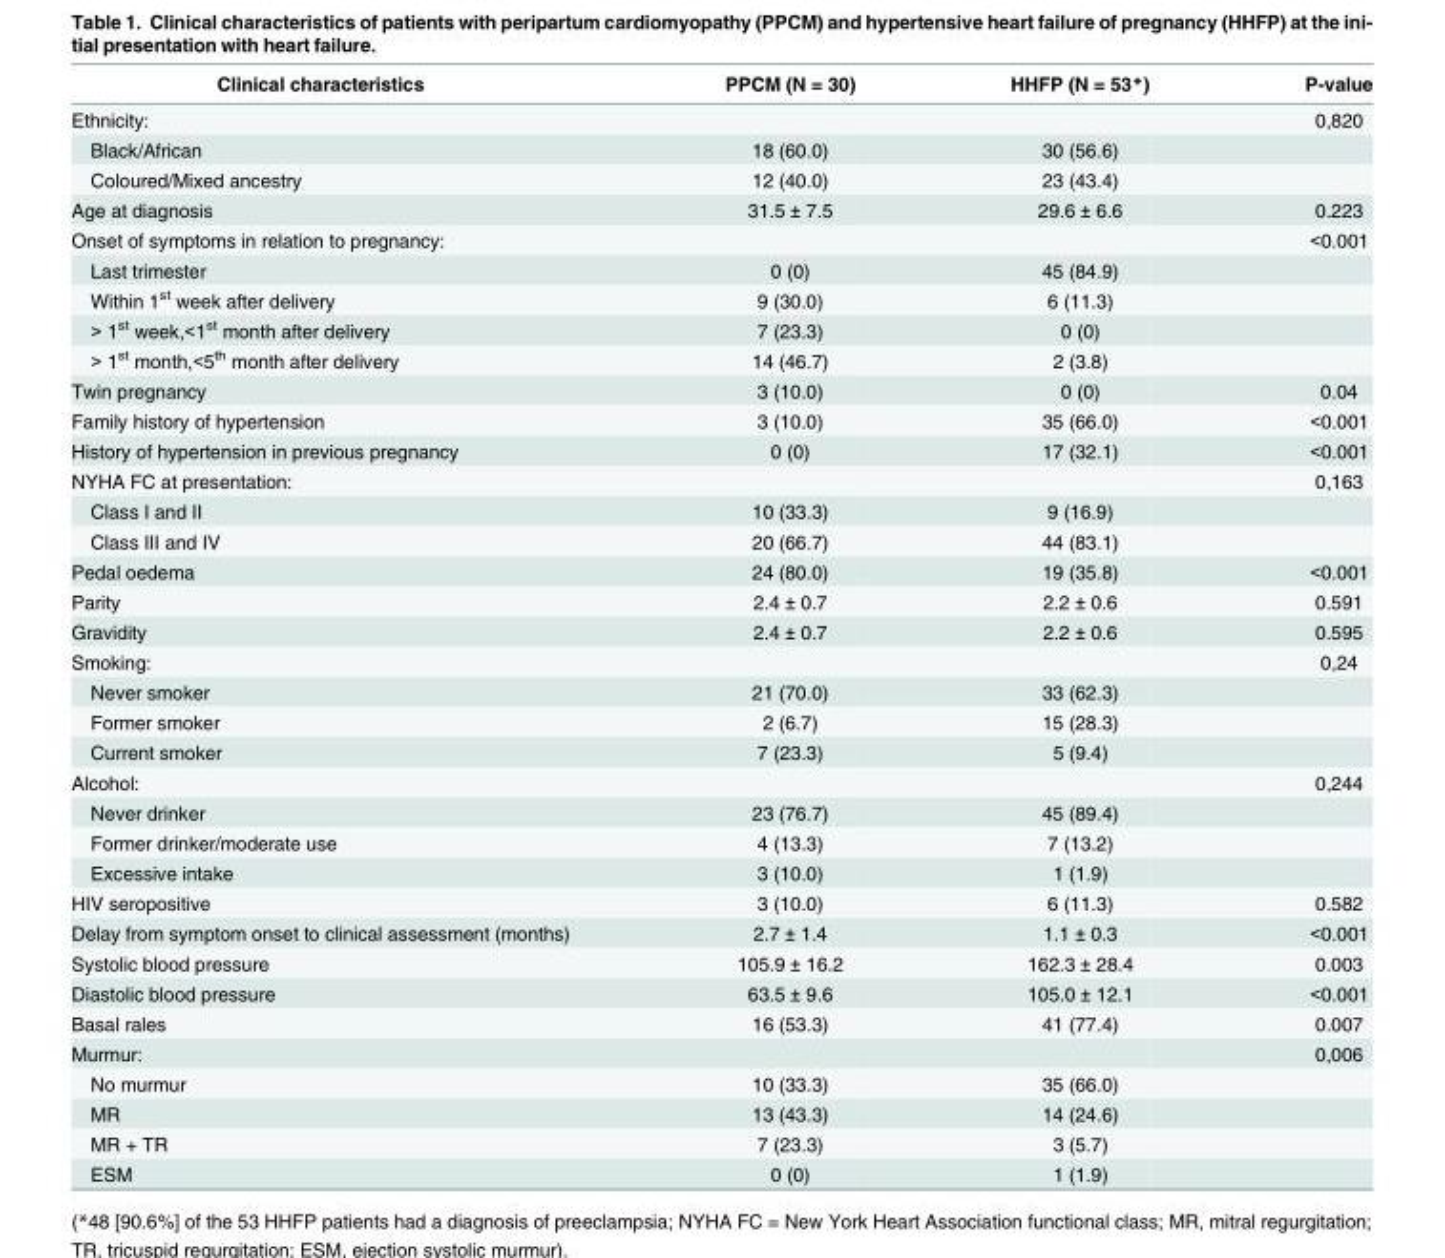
<table><thead><tr><td>Clinical characteristics</td><td>PPCM (N = 30)</td><td>HHFP (N = 53*)</td><td>P-value</td></tr></thead><tbody><tr><td>Ethnicity:</td><td></td><td></td><td>0,820</td></tr><tr><td>Black/African</td><td>18 (60.0)</td><td>30 (56.6)</td><td></td></tr><tr><td>Coloured/Mixed ancestry</td><td>12 (40.0)</td><td>23 (43.4)</td><td></td></tr><tr><td>Age at diagnosis</td><td>31.5 ± 7.5</td><td>29.6 ± 6.6</td><td>0.223</td></tr><tr><td>Onset of symptoms in relation to pregnancy:</td><td></td><td></td><td>&lt;0.001</td></tr><tr><td>Last trimester</td><td>0 (0)</td><td>45 (84.9)</td><td></td></tr><tr><td>Within 1<sup>st</sup> week after delivery</td><td>9 (30.0)</td><td>6 (11.3)</td><td></td></tr><tr><td>&gt; 1<sup>st</sup> week,&lt;1<sup>st</sup> month after delivery</td><td>7 (23.3)</td><td>0 (0)</td><td></td></tr><tr><td>&gt; 1<sup>st</sup> month,&lt;5<sup>th</sup> month after delivery</td><td>14 (46.7)</td><td>2 (3.8)</td><td></td></tr><tr><td>Twin pregnancy</td><td>3 (10.0)</td><td>0 (0)</td><td>0.04</td></tr><tr><td>Family history of hypertension</td><td>3 (10.0)</td><td>35 (66.0)</td><td>&lt;0.001</td></tr><tr><td>History of hypertension in previous pregnancy</td><td>0 (0)</td><td>17 (32.1)</td><td>&lt;0.001</td></tr><tr><td>NYHA FC at presentation:</td><td></td><td></td><td>0,163</td></tr><tr><td>Class I and II</td><td>10 (33.3)</td><td>9 (16.9)</td><td></td></tr><tr><td>Class III and IV</td><td>20 (66.7)</td><td>44 (83.1)</td><td></td></tr><tr><td>Pedal oedema</td><td>24 (80.0)</td><td>19 (35.8)</td><td>&lt;0.001</td></tr><tr><td>Parity</td><td>2.4 ± 0.7</td><td>2.2 ± 0.6</td><td>0.591</td></tr><tr><td>Gravidity</td><td>2.4 ± 0.7</td><td>2.2 ± 0.6</td><td>0.595</td></tr><tr><td>Smoking:</td><td></td><td></td><td>0,24</td></tr><tr><td>Never smoker</td><td>21 (70.0)</td><td>33 (62.3)</td><td></td></tr><tr><td>Former smoker</td><td>2 (6.7)</td><td>15 (28.3)</td><td></td></tr><tr><td>Current smoker</td><td>7 (23.3)</td><td>5 (9.4)</td><td></td></tr><tr><td>Alcohol:</td><td></td><td></td><td>0,244</td></tr><tr><td>Never drinker</td><td>23 (76.7)</td><td>45 (89.4)</td><td></td></tr><tr><td>Former drinker/moderate use</td><td>4 (13.3)</td><td>7 (13.2)</td><td></td></tr><tr><td>Excessive intake</td><td>3 (10.0)</td><td>1 (1.9)</td><td></td></tr><tr><td>HIV seropositive</td><td>3 (10.0)</td><td>6 (11.3)</td><td>0.582</td></tr><tr><td>Delay from symptom onset to clinical assessment (months)</td><td>2.7 ± 1.4</td><td>1.1 ± 0.3</td><td>&lt;0.001</td></tr><tr><td>Systolic blood pressure</td><td>105.9 ± 16.2</td><td>162.3 ± 28.4</td><td>0.003</td></tr><tr><td>Diastolic blood pressure</td><td>63.5 ± 9.6</td><td>105.0 ± 12.1</td><td>&lt;0.001</td></tr><tr><td>Basal rales</td><td>16 (53.3)</td><td>41 (77.4)</td><td>0.007</td></tr><tr><td>Murmur:</td><td></td><td></td><td>0,006</td></tr><tr><td>No murmur</td><td>10 (33.3)</td><td>35 (66.0)</td><td></td></tr><tr><td>MR</td><td>13 (43.3)</td><td>14 (24.6)</td><td></td></tr><tr><td>MR + TR</td><td>7 (23.3)</td><td>3 (5.7)</td><td></td></tr><tr><td>ESM</td><td>0 (0)</td><td>1 (1.9)</td><td></td></tr></tbody></table>